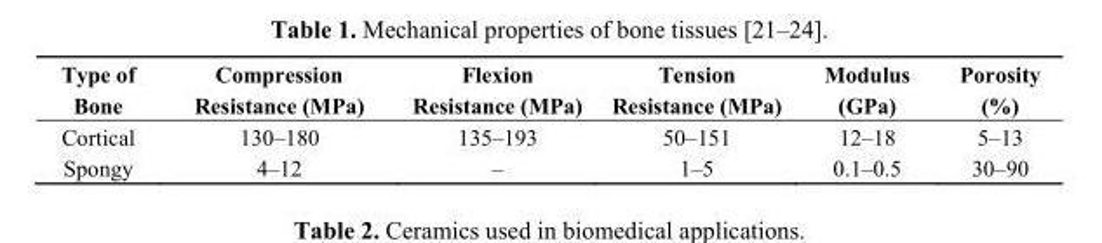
<table><thead><tr><td>Type of Bone</td><td>Compression Resistance (MPa)</td><td>Flexion Resistance (MPa)</td><td>Tension Resistance (MPa)</td><td>Modulus (GPa)</td><td>Porosity (%)</td></tr></thead><tbody><tr><td>Cortical</td><td>130–180</td><td>135–193</td><td>50–151</td><td>12–18</td><td>5–13</td></tr><tr><td>Spongy</td><td>4–12</td><td>–</td><td>1–5</td><td>0.1–0.5</td><td>30–90</td></tr></tbody></table>